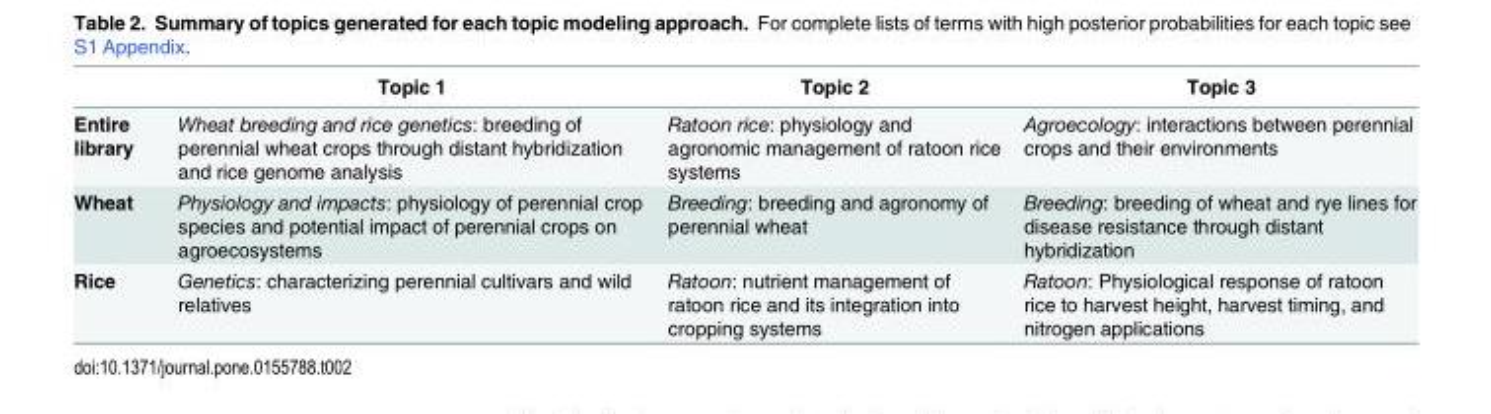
<table><thead><tr><td></td><td>Topic 1</td><td>Topic 2</td><td>Topic 3</td></tr></thead><tbody><tr><td>Entire library</td><td>Wheat breeding and rice genetics: breeding of perennial wheat crops through distant hybridization and rice genome analysis</td><td>Ratoon rice: physiology and agronomic management of ratoon rice systems</td><td>Agroecology: interactions between perennial crops and their environments</td></tr><tr><td>Wheat</td><td>Physiology and impacts: physiology of perennial crop species and potential impact of perennial crops on agroecosystems</td><td>Breeding: breeding and agronomy of perennial wheat</td><td>Breeding: breeding of wheat and rye lines for disease resistance through distant hybridization</td></tr><tr><td>Rice</td><td>Genetics: characterizing perennial cultivars and wild relatives</td><td>Ratoon: nutrient management of ratoon rice and its integration into cropping systems</td><td>Ratoon: Physiological response of ratoon rice to harvest height, harvest timing, and nitrogen applications</td></tr></tbody></table>